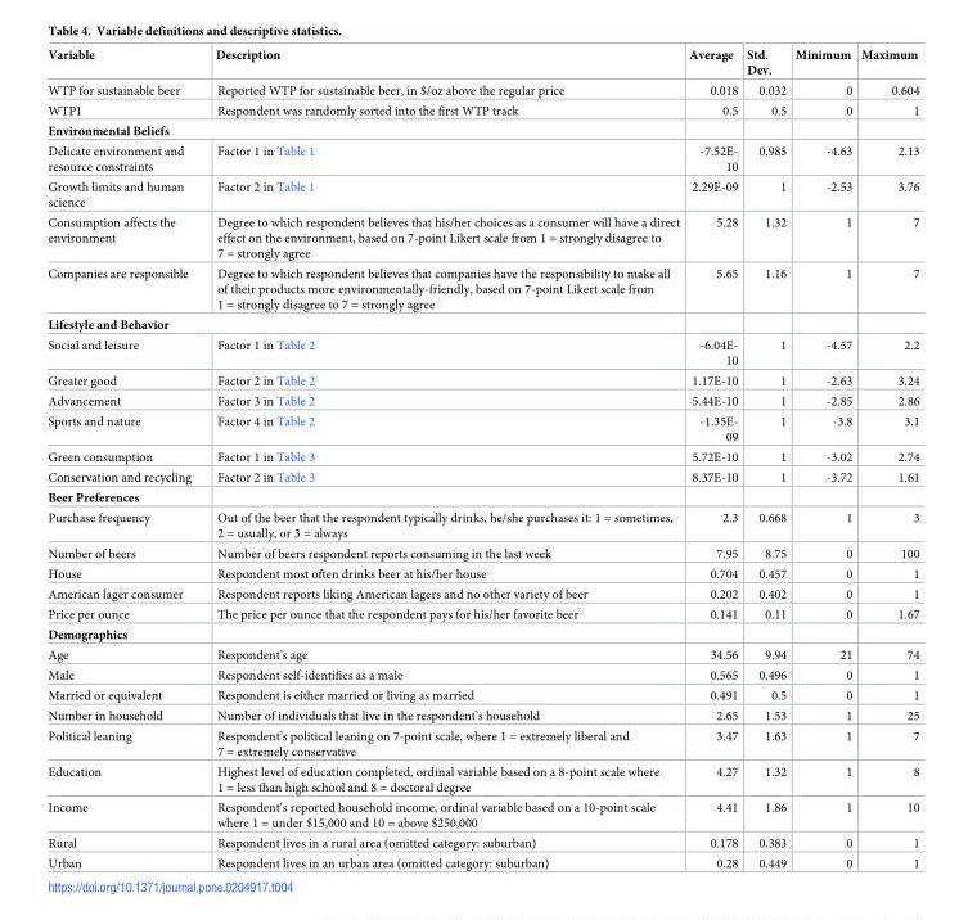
<table><thead><tr><td>Variable</td><td>Description</td><td>Average</td><td>Std. Dev.</td><td>Minimum</td><td>Maximum</td></tr></thead><tbody><tr><td>WTP for sustainable beer</td><td>Reported WTP for sustainable beer, in $/oz above the regular price</td><td>0.018</td><td>0.032</td><td>0</td><td>0.604</td></tr><tr><td>WTP1</td><td>Respondent was randomly sorted into the first WTP track</td><td>0.5</td><td>0.5</td><td>0</td><td>1</td></tr><tr><td colspan="6">Environmental Beliefs</td></tr><tr><td>Delicate environment and resource constraints</td><td>Factor 1 in Table 1</td><td>-7.52E- 10</td><td>0.985</td><td>-4.63</td><td>2.13</td></tr><tr><td>Growth limits and human science</td><td>Factor 2 in Table 1</td><td>2.29E-09</td><td>1</td><td>-2.53</td><td>3.76</td></tr><tr><td>Consumption affects the environment</td><td>Degree to which respondent believes that his/her choices as a consumer will have a direct effect on the environment, based on 7-point Likert scale from 1 = strongly disagree to 7 = strongly agree</td><td>5.28</td><td>1.32</td><td>1</td><td>7</td></tr><tr><td>Companies are responsible</td><td>Degree to which respondent believes that companies have the responsibility to make all of their products more environmentally-friendly, based on 7-point Likert scale from 1 = strongly disagree to 7 = strongly agree</td><td>5.65</td><td>1.16</td><td>1</td><td>7</td></tr><tr><td colspan="6">Lifestyle and Behavior</td></tr><tr><td>Social and leisure</td><td>Factor 1 in Table 2</td><td>-6.04E- 10</td><td>1</td><td>-4.57</td><td>2.2</td></tr><tr><td>Greater good</td><td>Factor 2 in Table 2</td><td>1.17E-10</td><td>1</td><td>-2.63</td><td>3.24</td></tr><tr><td>Advancement</td><td>Factor 3 in Table 2</td><td>5.44E-10</td><td>1</td><td>-2.85</td><td>2.86</td></tr><tr><td>Sports and nature</td><td>Factor 4 in Table 2</td><td>-1.35E- 09</td><td>1</td><td>-3.8</td><td>3.1</td></tr><tr><td>Green consumption</td><td>Factor 1 in Table 3</td><td>5.72E-10</td><td>1</td><td>-3.02</td><td>2.74</td></tr><tr><td>Conservation and recycling</td><td>Factor 2 in Table 3</td><td>8.37E-10</td><td>1</td><td>-3.72</td><td>1.61</td></tr><tr><td colspan="6">Beer Preferences</td></tr><tr><td>Purchase frequency</td><td>Out of the beer that the respondent typically drinks, he/she purchases it: 1 = sometimes, 2 = usually, or 3 = always</td><td>2.3</td><td>0.668</td><td>1</td><td>3</td></tr><tr><td>Number of beers</td><td>Number of beers respondent reports consuming in the last week</td><td>7.95</td><td>8.75</td><td>0</td><td>100</td></tr><tr><td>House</td><td>Respondent most often drinks beer at his/her house</td><td>0.704</td><td>0.457</td><td>0</td><td>1</td></tr><tr><td>American lager consumer</td><td>Respondent reports liking American lagers and no other variety of beer</td><td>0.202</td><td>0.402</td><td>0</td><td>1</td></tr><tr><td>Price per ounce</td><td>The price per ounce that the respondent pays for his/her favorite beer</td><td>0.141</td><td>0.11</td><td>0</td><td>1.67</td></tr><tr><td colspan="6">Demographics</td></tr><tr><td>Age</td><td>Respondent’s age</td><td>34.56</td><td>9.94</td><td>21</td><td>74</td></tr><tr><td>Male</td><td>Respondent self-identifies as a male</td><td>0.565</td><td>0.496</td><td>0</td><td>1</td></tr><tr><td>Married or equivalent</td><td>Respondent is either married or living as married</td><td>0.491</td><td>0.5</td><td>0</td><td>1</td></tr><tr><td>Number in household</td><td>Number of individuals that live in the respondent’s household</td><td>2.65</td><td>1.53</td><td>1</td><td>25</td></tr><tr><td>Political leaning</td><td>Respondent’s political leaning on 7-point scale, where 1 = extremely liberal and 7 = extremely conservative</td><td>3.47</td><td>1.63</td><td>1</td><td>7</td></tr><tr><td>Education</td><td>Highest level of education completed, ordinal variable based on a 8-point scale where 1 = less than high school and 8 = doctoral degree</td><td>4.27</td><td>1.32</td><td>1</td><td>8</td></tr><tr><td>Income</td><td>Respondent’s reported household income, ordinal variable based on a 10-point scale where 1 = under $15,000 and 10 = above $250,000</td><td>4.41</td><td>1.86</td><td>1</td><td>10</td></tr><tr><td>Rural</td><td>Respondent lives in a rural area (omitted category: suburban)</td><td>0.178</td><td>0.383</td><td>0</td><td>1</td></tr><tr><td>Urban</td><td>Respondent lives in an urban area (omitted category: suburban)</td><td>0.28</td><td>0.449</td><td>0</td><td>1</td></tr></tbody></table>